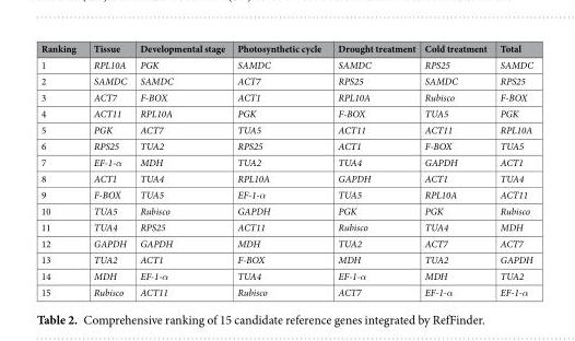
<table><thead><tr><td>Ranking</td><td>Tissue</td><td>Developmental stage</td><td>Photosynthetic cycle</td><td>Drought treatment</td><td>Cold treatment</td><td>Total</td></tr></thead><tbody><tr><td>1</td><td>RPL10A</td><td>PGK</td><td>SAMDC</td><td>SAMDC</td><td>RPS25</td><td>SAMDC</td></tr><tr><td>2</td><td>SAMDC</td><td>SAMDC</td><td>ACT7</td><td>RPS25</td><td>SAMDC</td><td>RPS25</td></tr><tr><td>3</td><td>ACT7</td><td>F-BOX</td><td>ACT1</td><td>RPL10A</td><td>Rubisco</td><td>F-BOX</td></tr><tr><td>4</td><td>ACT11</td><td>RPL10A</td><td>PGK</td><td>F-BOX</td><td>TUA5</td><td>PGK</td></tr><tr><td>5</td><td>PGK</td><td>ACT7</td><td>TUA5</td><td>ACT11</td><td>ACT11</td><td>RPL10A</td></tr><tr><td>6</td><td>RPS25</td><td>TUA2</td><td>RPS25</td><td>ACT1</td><td>F-BOX</td><td>TUA5</td></tr><tr><td>7</td><td>EF-1-α</td><td>MDH</td><td>TUA2</td><td>TUA4</td><td>GAPDH</td><td>ACT1</td></tr><tr><td>8</td><td>ACT1</td><td>TUA4</td><td>RPL10A</td><td>GAPDH</td><td>ACT1</td><td>TUA4</td></tr><tr><td>9</td><td>F-BOX</td><td>TUA5</td><td>EF-1-α</td><td>TUA5</td><td>RPL10A</td><td>ACT11</td></tr><tr><td>10</td><td>TUA5</td><td>Rubisco</td><td>GAPDH</td><td>PGK</td><td>PGK</td><td>Rubisco</td></tr><tr><td>11</td><td>TUA4</td><td>RPS25</td><td>ACT11</td><td>Rubisco</td><td>TUA4</td><td>MDH</td></tr><tr><td>12</td><td>GAPDH</td><td>GAPDH</td><td>MDH</td><td>TUA2</td><td>ACT7</td><td>ACT7</td></tr><tr><td>13</td><td>TUA2</td><td>ACT1</td><td>F-BOX</td><td>MDH</td><td>TUA2</td><td>GAPDH</td></tr><tr><td>14</td><td>MDH</td><td>EF-1-α</td><td>TUA4</td><td>EF-1-α</td><td>MDH</td><td>TUA2</td></tr><tr><td>15</td><td>Rubisco</td><td>ACT11</td><td>Rubisco</td><td>ACT7</td><td>EF-1-α</td><td>EF-1-α</td></tr></tbody></table>